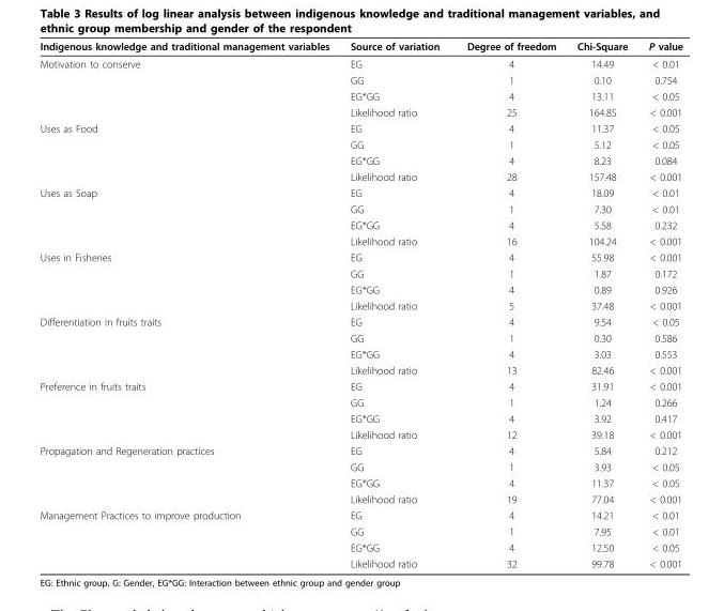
<table><thead><tr><td>Indigenous knowledge and traditional management variables</td><td>Source of variation</td><td>Degree of freedom</td><td>Chi-Square</td><td>P value</td></tr></thead><tbody><tr><td rowspan="4">Motivation to conserve</td><td>EG</td><td>4</td><td>14.49</td><td>&lt; 0.01</td></tr><tr><td>GG</td><td>1</td><td>0.10</td><td>0.754</td></tr><tr><td>EG*GG</td><td>4</td><td>13.11</td><td>&lt; 0.05</td></tr><tr><td>Likelihood ratio</td><td>25</td><td>164.85</td><td>&lt; 0.001</td></tr><tr><td rowspan="4">Uses as Food</td><td>EG</td><td>4</td><td>11.37</td><td>&lt; 0.05</td></tr><tr><td>GG</td><td>1</td><td>5.12</td><td>&lt; 0.05</td></tr><tr><td>EG*GG</td><td>4</td><td>8.23</td><td>0.084</td></tr><tr><td>Likelihood ratio</td><td>28</td><td>157.48</td><td>&lt; 0.001</td></tr><tr><td rowspan="4">Uses as Soap</td><td>EG</td><td>4</td><td>18.09</td><td>&lt; 0.01</td></tr><tr><td>GG</td><td>1</td><td>7.30</td><td>&lt; 0.01</td></tr><tr><td>EG*GG</td><td>4</td><td>5.58</td><td>0.232</td></tr><tr><td>Likelihood ratio</td><td>16</td><td>104.24</td><td>&lt; 0.001</td></tr><tr><td rowspan="4">Uses in Fisheries</td><td>EG</td><td>4</td><td>55.98</td><td>&lt; 0.001</td></tr><tr><td>GG</td><td>1</td><td>1.87</td><td>0.172</td></tr><tr><td>EG*GG</td><td>4</td><td>0.89</td><td>0.926</td></tr><tr><td>Likelihood ratio</td><td>5</td><td>37.48</td><td>&lt; 0.001</td></tr><tr><td rowspan="4">Differentiation in fruits traits</td><td>EG</td><td>4</td><td>9.54</td><td>&lt; 0.05</td></tr><tr><td>GG</td><td>1</td><td>0.30</td><td>0.586</td></tr><tr><td>EG*GG</td><td>4</td><td>3.03</td><td>0.553</td></tr><tr><td>Likelihood ratio</td><td>13</td><td>82.46</td><td>&lt; 0.001</td></tr><tr><td rowspan="4">Preference in fruits traits</td><td>EG</td><td>4</td><td>31.91</td><td>&lt; 0.001</td></tr><tr><td>GG</td><td>1</td><td>1.24</td><td>0.266</td></tr><tr><td>EG*GG</td><td>4</td><td>3.92</td><td>0.417</td></tr><tr><td>Likelihood ratio</td><td>12</td><td>39.18</td><td>&lt; 0.001</td></tr><tr><td rowspan="4">Propagation and Regeneration practices</td><td>EG</td><td>4</td><td>5.84</td><td>0.212</td></tr><tr><td>GG</td><td>1</td><td>3.93</td><td>&lt; 0.05</td></tr><tr><td>EG*GG</td><td>4</td><td>11.37</td><td>&lt; 0.05</td></tr><tr><td>Likelihood ratio</td><td>19</td><td>77.04</td><td>&lt; 0.001</td></tr><tr><td rowspan="4">Management Practices to improve production</td><td>EG</td><td>4</td><td>14.21</td><td>&lt; 0.01</td></tr><tr><td>GG</td><td>1</td><td>7.95</td><td>&lt; 0.01</td></tr><tr><td>EG*GG</td><td>4</td><td>12.50</td><td>&lt; 0.05</td></tr><tr><td>Likelihood ratio</td><td>32</td><td>99.78</td><td>&lt; 0.001</td></tr></tbody></table>